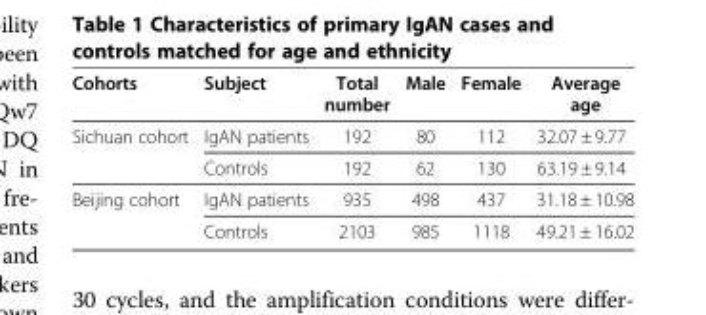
<table><thead><tr><td>Cohorts</td><td>Subject</td><td>Total number</td><td>Male</td><td>Female</td><td>Average age</td></tr></thead><tbody><tr><td rowspan="2">Sichuan cohort</td><td>IgAN patients</td><td>192</td><td>80</td><td>112</td><td>32.07 ± 9.77</td></tr><tr><td>Controls</td><td>192</td><td>62</td><td>130</td><td>63.19 ± 9.14</td></tr><tr><td rowspan="2">Beijing cohort</td><td>IgAN patients</td><td>935</td><td>498</td><td>437</td><td>31.18 ± 10.98</td></tr><tr><td>Controls</td><td>2103</td><td>985</td><td>1118</td><td>49.21 ± 16.02</td></tr></tbody></table>